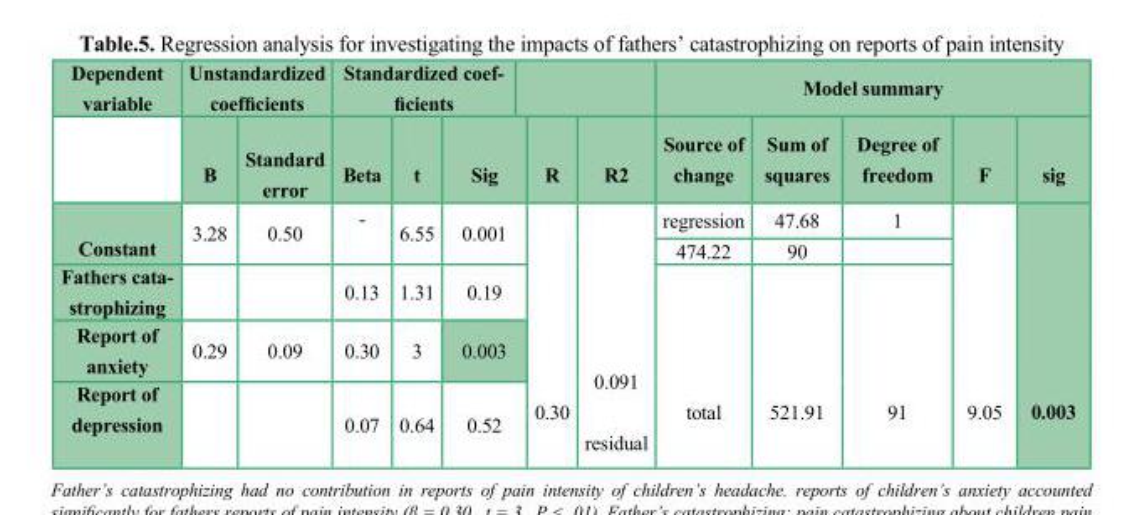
<table><thead><tr><td rowspan="2">Dependent variable</td><td colspan="2">Unstandardized coefficients</td><td colspan="5">Standardized coef- ficients</td><td colspan="5">Model summary</td></tr><tr><td>B</td><td>Standard error</td><td>Beta</td><td>t</td><td>Sig</td><td>R</td><td>R<sup>2</sup></td><td>Source of change</td><td>Sum of squares</td><td>Degree of freedom</td><td>F</td><td>sig</td></tr></thead><tbody><tr><td rowspan="2">Constant</td><td rowspan="2">3.28</td><td rowspan="2">0.50</td><td rowspan="2">-</td><td rowspan="2">6.55</td><td rowspan="2">0.001</td><td rowspan="5">0.30</td><td rowspan="5">0.091 residual</td><td>regression</td><td>47.68</td><td>1</td><td rowspan="5">9.05</td><td rowspan="5">0.003</td></tr><tr><td>474.22</td><td>90</td><td></td></tr><tr><td>Fathers cata- strophizing</td><td></td><td></td><td>0.13</td><td>1.31</td><td>0.19</td><td rowspan="3">total</td><td rowspan="3">521.91</td><td rowspan="3">91</td></tr><tr><td>Report of anxiety</td><td>0.29</td><td>0.09</td><td>0.30</td><td>3</td><td>0.003</td></tr><tr><td>Report of depression</td><td></td><td></td><td>0.07</td><td>0.64</td><td>0.52</td></tr></tbody></table>